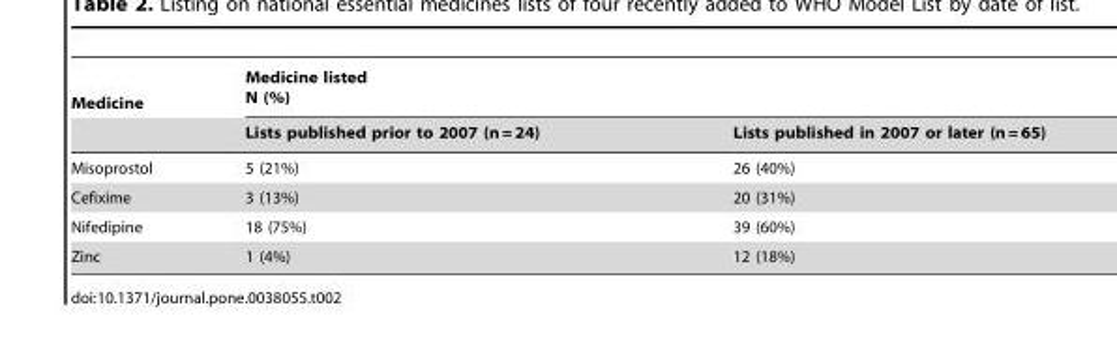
<table><thead><tr><td rowspan="2">Medicine</td><td colspan="2">Medicine listed N (%)</td></tr><tr><td>Lists published prior to 2007 (n = 24)</td><td>Lists published in 2007 or later (n = 65)</td></tr></thead><tbody><tr><td>Misoprostol</td><td>5 (21%)</td><td>26 (40%)</td></tr><tr><td>Cefixime</td><td>3 (13%)</td><td>20 (31%)</td></tr><tr><td>Nifedipine</td><td>18 (75%)</td><td>39 (60%)</td></tr><tr><td>Zinc</td><td>1 (4%)</td><td>12 (18%)</td></tr></tbody></table>